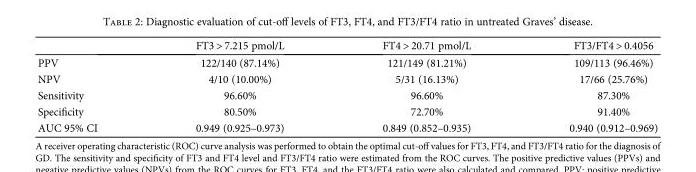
<table><thead><tr><td></td><td>FT3 &gt; 7.215 pmol/L</td><td>FT4 &gt; 20.71 pmol/L</td><td>FT3/FT4 &gt; 0.4056</td></tr></thead><tbody><tr><td>PPV</td><td>122/140 (87.14%)</td><td>121/149 (81.21%)</td><td>109/113 (96.46%)</td></tr><tr><td>NPV</td><td>4/10 (10.00%)</td><td>5/31 (16.13%)</td><td>17/66 (25.76%)</td></tr><tr><td>Sensitivity</td><td>96.60%</td><td>96.60%</td><td>87.30%</td></tr><tr><td>Specificity</td><td>80.50%</td><td>72.70%</td><td>91.40%</td></tr><tr><td>AUC 95% CI</td><td>0.949 (0.925–0.973)</td><td>0.849 (0.852–0.935)</td><td>0.940 (0.912–0.969)</td></tr></tbody></table>